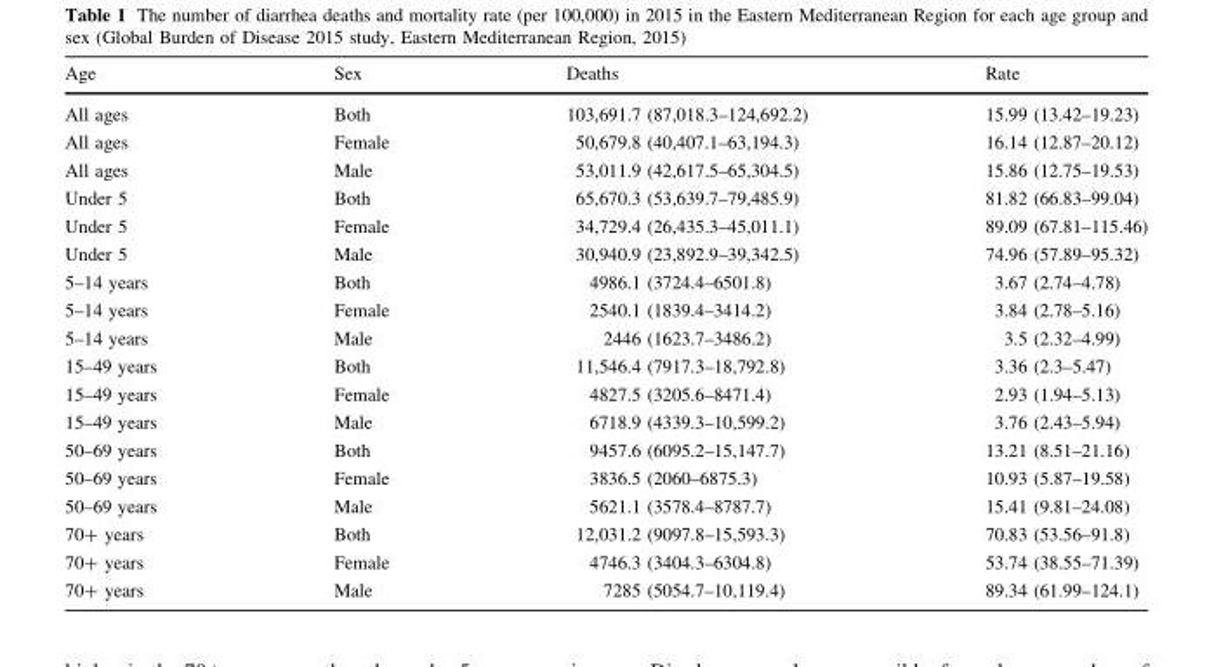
<table><thead><tr><td>Age</td><td>Sex</td><td>Deaths</td><td>Rate</td></tr></thead><tbody><tr><td>All ages</td><td>Both</td><td>103,691.7 (87,018.3–124,692.2)</td><td>15.99 (13.42–19.23)</td></tr><tr><td>All ages</td><td>Female</td><td>50,679.8 (40,407.1–63,194.3)</td><td>16.14 (12.87–20.12)</td></tr><tr><td>All ages</td><td>Male</td><td>53,011.9 (42,617.5–65,304.5)</td><td>15.86 (12.75–19.53)</td></tr><tr><td>Under 5</td><td>Both</td><td>65,670.3 (53,639.7–79,485.9)</td><td>81.82 (66.83–99.04)</td></tr><tr><td>Under 5</td><td>Female</td><td>34,729.4 (26,435.3–45,011.1)</td><td>89.09 (67.81–115.46)</td></tr><tr><td>Under 5</td><td>Male</td><td>30,940.9 (23,892.9–39,342.5)</td><td>74.96 (57.89–95.32)</td></tr><tr><td>5–14 years</td><td>Both</td><td>4986.1 (3724.4–6501.8)</td><td>3.67 (2.74–4.78)</td></tr><tr><td>5–14 years</td><td>Female</td><td>2540.1 (1839.4–3414.2)</td><td>3.84 (2.78–5.16)</td></tr><tr><td>5–14 years</td><td>Male</td><td>2446 (1623.7–3486.2)</td><td>3.5 (2.32–4.99)</td></tr><tr><td>15–49 years</td><td>Both</td><td>11,546.4 (7917.3–18,792.8)</td><td>3.36 (2.3–5.47)</td></tr><tr><td>15–49 years</td><td>Female</td><td>4827.5 (3205.6–8471.4)</td><td>2.93 (1.94–5.13)</td></tr><tr><td>15–49 years</td><td>Male</td><td>6718.9 (4339.3–10,599.2)</td><td>3.76 (2.43–5.94)</td></tr><tr><td>50–69 years</td><td>Both</td><td>9457.6 (6095.2–15,147.7)</td><td>13.21 (8.51–21.16)</td></tr><tr><td>50–69 years</td><td>Female</td><td>3836.5 (2060–6875.3)</td><td>10.93 (5.87–19.58)</td></tr><tr><td>50–69 years</td><td>Male</td><td>5621.1 (3578.4–8787.7)</td><td>15.41 (9.81–24.08)</td></tr><tr><td>70+ years</td><td>Both</td><td>12,031.2 (9097.8–15,593.3)</td><td>70.83 (53.56–91.8)</td></tr><tr><td>70+ years</td><td>Female</td><td>4746.3 (3404.3–6304.8)</td><td>53.74 (38.55–71.39)</td></tr><tr><td>70+ years</td><td>Male</td><td>7285 (5054.7–10,119.4)</td><td>89.34 (61.99–124.1)</td></tr></tbody></table>